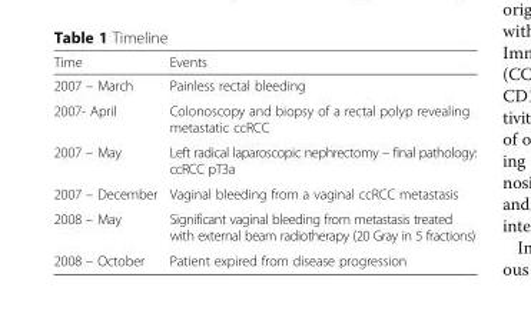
<table><thead><tr><td>Time</td><td>Events</td></tr></thead><tbody><tr><td>2007 – March</td><td>Painless rectal bleeding</td></tr><tr><td>2007- April</td><td>Colonoscopy and biopsy of a rectal polyp revealing metastatic ccRCC</td></tr><tr><td>2007 – May</td><td>Left radical laparoscopic nephrectomy – final pathology: ccRCC pT3a</td></tr><tr><td>2007 – December</td><td>Vaginal bleeding from a vaginal ccRCC metastasis</td></tr><tr><td>2008 – May</td><td>Significant vaginal bleeding from metastasis treated with external beam radiotherapy (20 Gray in 5 fractions)</td></tr><tr><td>2008 – October</td><td>Patient expired from disease progression</td></tr></tbody></table>